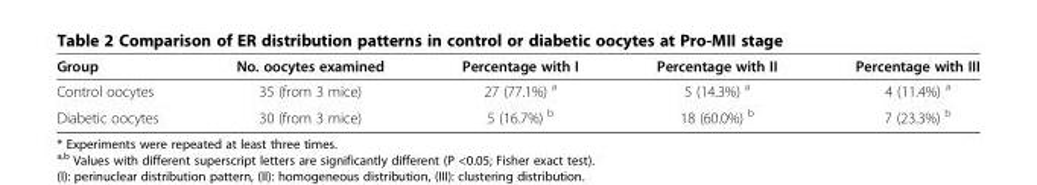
<table><thead><tr><td>Group</td><td>No. oocytes examined</td><td>Percentage with I</td><td>Percentage with II</td><td>Percentage with III</td></tr></thead><tbody><tr><td>Control oocytes</td><td>35 (from 3 mice)</td><td>27 (77.1%) <sup>a</sup></td><td>5 (14.3%) <sup>a</sup></td><td>4 (11.4%) <sup>a</sup></td></tr><tr><td>Diabetic oocytes</td><td>30 (from 3 mice)</td><td>5 (16.7%) <sup>b</sup></td><td>18 (60.0%) <sup>b</sup></td><td>7 (23.3%) <sup>b</sup></td></tr></tbody></table>